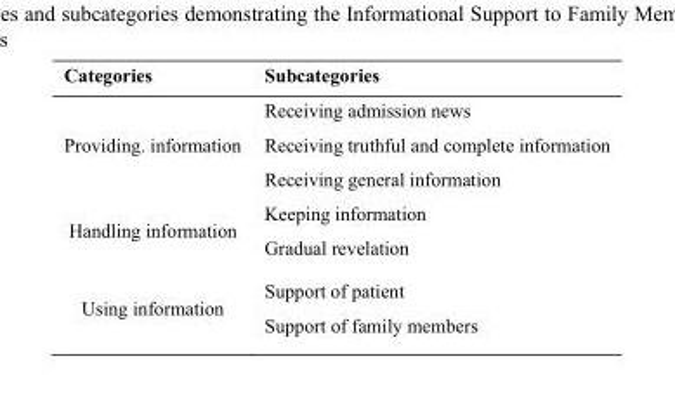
<table><thead><tr><td>Categories</td><td>Subcategories</td></tr></thead><tbody><tr><td rowspan="3">Providing. information</td><td>Receiving admission news</td></tr><tr><td>Receiving truthful and complete information</td></tr><tr><td>Receiving general information</td></tr><tr><td rowspan="2">Handling information</td><td>Keeping information</td></tr><tr><td>Gradual revelation</td></tr><tr><td rowspan="2">Using information</td><td>Support of patient</td></tr><tr><td>Support of family members</td></tr></tbody></table>